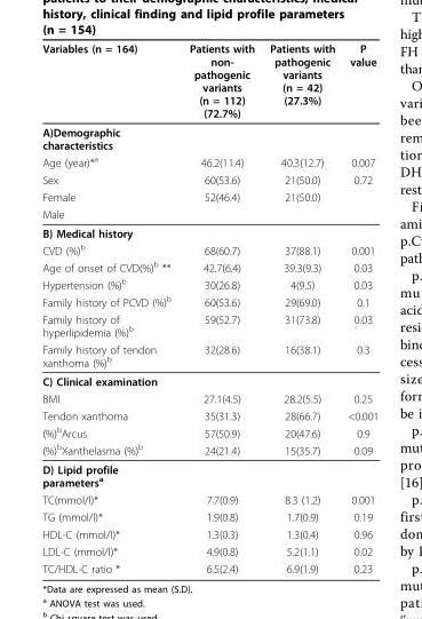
<table><thead><tr><td>Variables (n = 164)</td><td>Patients with non- pathogenic variants (n = 112) (72.7%)</td><td>Patients with pathogenic variants (n = 42) (27.3%)</td><td>P value</td></tr></thead><tbody><tr><td colspan="4">A)Demographic characteristics</td></tr><tr><td>Age (year)*<sup>a</sup></td><td>46.2(11.4)</td><td>40.3(12.7)</td><td>0.007</td></tr><tr><td>Sex</td><td>60(53.6)</td><td>21(50.0)</td><td>0.72</td></tr><tr><td>Female</td><td>52(46.4)</td><td>21(50.0)</td><td></td></tr><tr><td colspan="4">Male</td></tr><tr><td colspan="4">B) Medical history</td></tr><tr><td>CVD (%)<sup>b</sup></td><td>68(60.7)</td><td>37(88.1)</td><td>0.001</td></tr><tr><td>Age of onset of CVD(%)<sup>b</sup> **</td><td>42.7(6.4)</td><td>39.3(9.3)</td><td>0.03</td></tr><tr><td>Hypertension (%)<sup>b</sup></td><td>30(26.8)</td><td>4(9.5)</td><td>0.03</td></tr><tr><td>Family history of PCVD (%)<sup>b</sup></td><td>60(53.6)</td><td>29(69.0)</td><td>0.1</td></tr><tr><td>Family history of hyperlipidemia (%)<sup>b</sup></td><td>59(52.7)</td><td>31(73.8)</td><td>0.03</td></tr><tr><td>Family history of tendon xanthoma (%)<sup>b</sup></td><td>32(28.6)</td><td>16(38.1)</td><td>0.3</td></tr><tr><td colspan="4">C) Clinical examination</td></tr><tr><td>BMI</td><td>27.1(4.5)</td><td>28.2(5.5)</td><td>0.25</td></tr><tr><td>Tendon xanthoma</td><td>35(31.3)</td><td>28(66.7)</td><td>&lt;0.001</td></tr><tr><td>(%)<sup>b</sup>Arcus</td><td>57(50.9)</td><td>20(47.6)</td><td>0.9</td></tr><tr><td>(%)<sup>b</sup>Xanthelasma (%)<sup>b</sup></td><td>24(21.4)</td><td>15(35.7)</td><td>0.09</td></tr><tr><td colspan="4">D) Lipid profile parameters<sup>a</sup></td></tr><tr><td>TC(mmol/l)*</td><td>7.7(0.9)</td><td>8.3 (1.2)</td><td>0.001</td></tr><tr><td>TG (mmol/l)*</td><td>1.9(0.8)</td><td>1.7(0.9)</td><td>0.19</td></tr><tr><td>HDL-C (mmol/l)*</td><td>1.3(0.3)</td><td>1.3(0.4)</td><td>0.96</td></tr><tr><td>LDL-C (mmol/l)*</td><td>4.9(0.8)</td><td>5.2(1.1)</td><td>0.02</td></tr><tr><td>TC/HDL-C ratio *</td><td>6.5(2.4)</td><td>6.9(1.9)</td><td>0.23</td></tr></tbody></table>